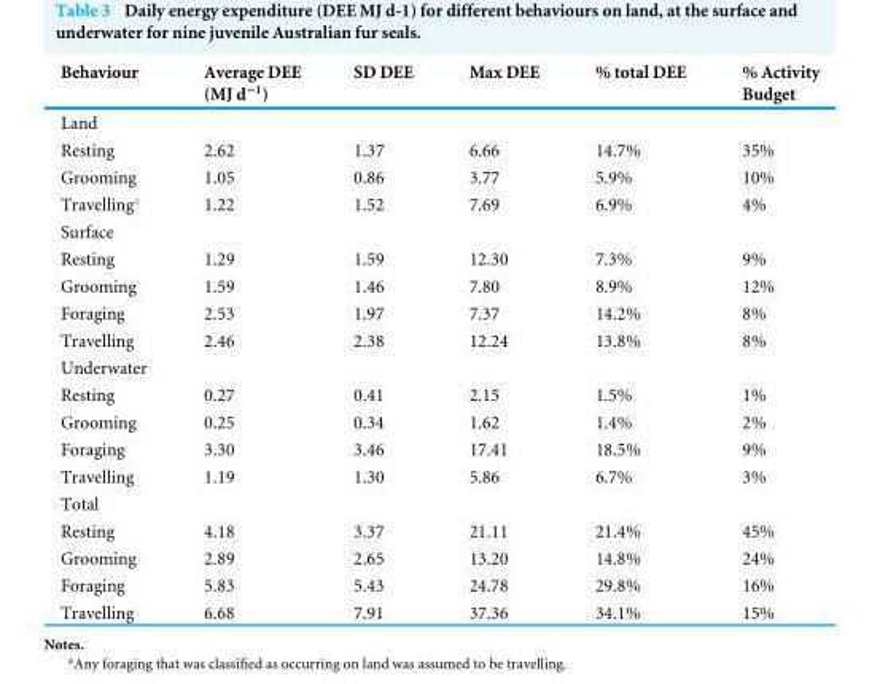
<table><thead><tr><td>Behaviour</td><td>Average DEE (MJ d<sup>−1</sup>)</td><td>SD DEE</td><td>Max DEE</td><td>% total DEE</td><td>% Activity Budget</td></tr></thead><tbody><tr><td colspan="6">Land</td></tr><tr><td>Resting</td><td>2.62</td><td>1.37</td><td>6.66</td><td>14.7%</td><td>35%</td></tr><tr><td>Grooming</td><td>1.05</td><td>0.86</td><td>3.77</td><td>5.9%</td><td>10%</td></tr><tr><td>Travelling<sup>a</sup></td><td>1.22</td><td>1.52</td><td>7.69</td><td>6.9%</td><td>4%</td></tr><tr><td colspan="6">Surface</td></tr><tr><td>Resting</td><td>1.29</td><td>1.59</td><td>12.30</td><td>7.3%</td><td>9%</td></tr><tr><td>Grooming</td><td>1.59</td><td>1.46</td><td>7.80</td><td>8.9%</td><td>12%</td></tr><tr><td>Foraging</td><td>2.53</td><td>1.97</td><td>7.37</td><td>14.2%</td><td>8%</td></tr><tr><td>Travelling</td><td>2.46</td><td>2.38</td><td>12.24</td><td>13.8%</td><td>8%</td></tr><tr><td colspan="6">Underwater</td></tr><tr><td>Resting</td><td>0.27</td><td>0.41</td><td>2.15</td><td>1.5%</td><td>1%</td></tr><tr><td>Grooming</td><td>0.25</td><td>0.34</td><td>1.62</td><td>1.4%</td><td>2%</td></tr><tr><td>Foraging</td><td>3.30</td><td>3.46</td><td>17.41</td><td>18.5%</td><td>9%</td></tr><tr><td>Travelling</td><td>1.19</td><td>1.30</td><td>5.86</td><td>6.7%</td><td>3%</td></tr><tr><td colspan="6">Total</td></tr><tr><td>Resting</td><td>4.18</td><td>3.37</td><td>21.11</td><td>21.4%</td><td>45%</td></tr><tr><td>Grooming</td><td>2.89</td><td>2.65</td><td>13.20</td><td>14.8%</td><td>24%</td></tr><tr><td>Foraging</td><td>5.83</td><td>5.43</td><td>24.78</td><td>29.8%</td><td>16%</td></tr><tr><td>Travelling</td><td>6.68</td><td>7.91</td><td>37.36</td><td>34.1%</td><td>15%</td></tr></tbody></table>